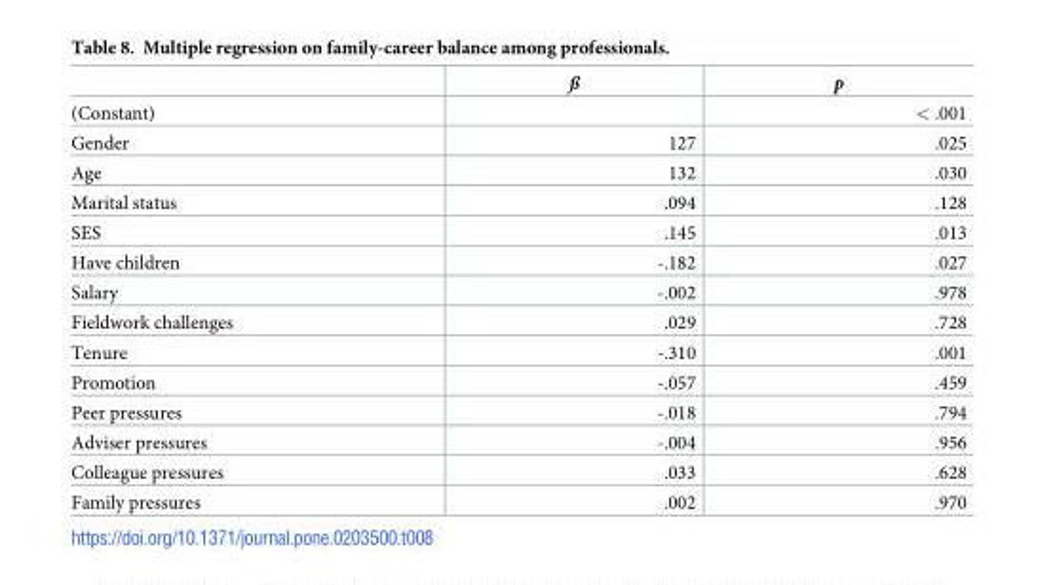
<table><thead><tr><td></td><td>ß</td><td>p</td></tr></thead><tbody><tr><td>(Constant)</td><td></td><td>&lt; .001</td></tr><tr><td>Gender</td><td>127</td><td>.025</td></tr><tr><td>Age</td><td>132</td><td>.030</td></tr><tr><td>Marital status</td><td>.094</td><td>.128</td></tr><tr><td>SES</td><td>.145</td><td>.013</td></tr><tr><td>Have children</td><td>-.182</td><td>.027</td></tr><tr><td>Salary</td><td>-.002</td><td>.978</td></tr><tr><td>Fieldwork challenges</td><td>.029</td><td>.728</td></tr><tr><td>Tenure</td><td>-.310</td><td>.001</td></tr><tr><td>Promotion</td><td>-.057</td><td>.459</td></tr><tr><td>Peer pressures</td><td>-.018</td><td>.794</td></tr><tr><td>Adviser pressures</td><td>-.004</td><td>.956</td></tr><tr><td>Colleague pressures</td><td>.033</td><td>.628</td></tr><tr><td>Family pressures</td><td>.002</td><td>.970</td></tr></tbody></table>